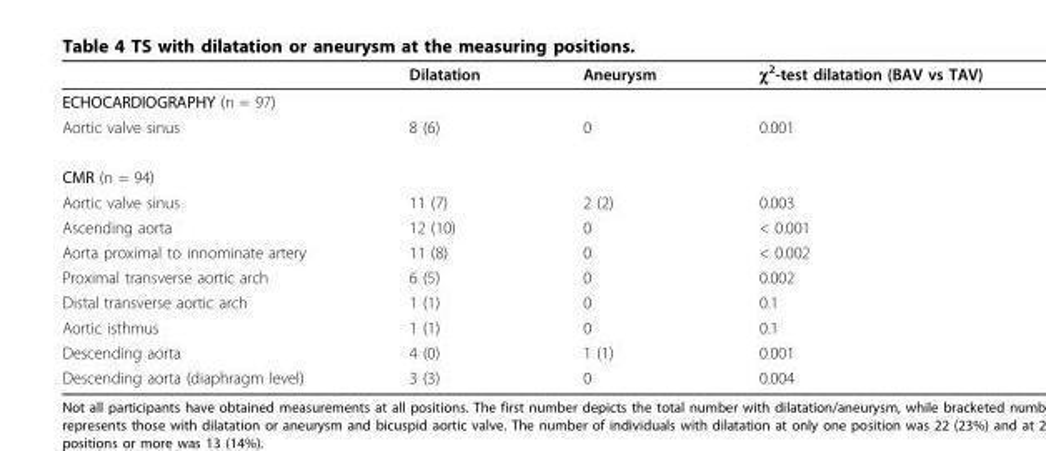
<table><thead><tr><td></td><td>Dilatation</td><td>Aneurysm</td><td>χ<sup>2</sup>-test dilatation (BAV vs TAV)</td></tr></thead><tbody><tr><td colspan="4">ECHOCARDIOGRAPHY (n = 97)</td></tr><tr><td>Aortic valve sinus</td><td>8 (6)</td><td>0</td><td>0.001</td></tr><tr><td colspan="4">CMR (n = 94)</td></tr><tr><td>Aortic valve sinus</td><td>11 (7)</td><td>2 (2)</td><td>0.003</td></tr><tr><td>Ascending aorta</td><td>12 (10)</td><td>0</td><td>&lt; 0.001</td></tr><tr><td>Aorta proximal to innominate artery</td><td>11 (8)</td><td>0</td><td>&lt; 0.002</td></tr><tr><td>Proximal transverse aortic arch</td><td>6 (5)</td><td>0</td><td>0.002</td></tr><tr><td>Distal transverse aortic arch</td><td>1 (1)</td><td>0</td><td>0.1</td></tr><tr><td>Aortic isthmus</td><td>1 (1)</td><td>0</td><td>0.1</td></tr><tr><td>Descending aorta</td><td>4 (0)</td><td>1 (1)</td><td>0.001</td></tr><tr><td>Descending aorta (diaphragm level)</td><td>3 (3)</td><td>0</td><td>0.004</td></tr></tbody></table>